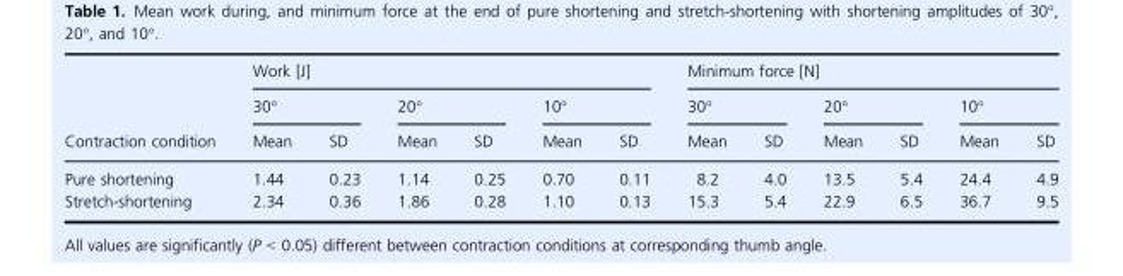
<table><thead><tr><td rowspan="3">Contraction condition</td><td colspan="6">Work [J]</td><td colspan="6">Minimum force [N]</td></tr><tr><td colspan="2">30°</td><td colspan="2">20°</td><td colspan="2">10°</td><td colspan="2">30°</td><td colspan="2">20°</td><td colspan="2">10°</td></tr><tr><td>Mean</td><td>SD</td><td>Mean</td><td>SD</td><td>Mean</td><td>SD</td><td>Mean</td><td>SD</td><td>Mean</td><td>SD</td><td>Mean</td><td>SD</td></tr></thead><tbody><tr><td>Pure shortening</td><td>1.44</td><td>0.23</td><td>1.14</td><td>0.25</td><td>0.70</td><td>0.11</td><td>8.2</td><td>4.0</td><td>13.5</td><td>5.4</td><td>24.4</td><td>4.9</td></tr><tr><td>Stretch-shortening</td><td>2.34</td><td>0.36</td><td>1.86</td><td>0.28</td><td>1.10</td><td>0.13</td><td>15.3</td><td>5.4</td><td>22.9</td><td>6.5</td><td>36.7</td><td>9.5</td></tr></tbody></table>